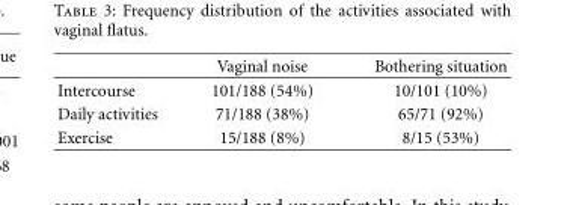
<table><thead><tr><td></td><td>Vaginal noise</td><td>Bothering situation</td></tr></thead><tbody><tr><td>Intercourse</td><td>101/188 (54%)</td><td>10/101 (10%)</td></tr><tr><td>Daily activities</td><td>71/188 (38%)</td><td>65/71 (92%)</td></tr><tr><td>Exercise</td><td>15/188 (8%)</td><td>8/15 (53%)</td></tr></tbody></table>